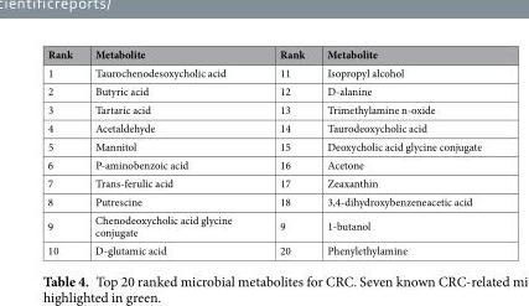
<table><thead><tr><td>Rank</td><td>Metabolite</td><td>Rank</td><td>Metabolite</td></tr></thead><tbody><tr><td>1</td><td>Taurochenodesoxycholic acid</td><td>11</td><td>Isopropyl alcohol</td></tr><tr><td>2</td><td>Butyric acid</td><td>12</td><td>D-alanine</td></tr><tr><td>3</td><td>Tartaric acid</td><td>13</td><td>Trimethylamine n-oxide</td></tr><tr><td>4</td><td>Acetaldehyde</td><td>14</td><td>Taurodeoxycholic acid</td></tr><tr><td>5</td><td>Mannitol</td><td>15</td><td>Deoxycholic acid glycine conjugate</td></tr><tr><td>6</td><td>P-aminobenzoic acid</td><td>16</td><td>Acetone</td></tr><tr><td>7</td><td>Trans-ferulic acid</td><td>17</td><td>Zeaxanthin</td></tr><tr><td>8</td><td>Putrescine</td><td>18</td><td>3,4-dihydroxybenzeneacetic acid</td></tr><tr><td>9</td><td>Chenodeoxycholic acid glycine conjugate</td><td>9</td><td>1-butanol</td></tr><tr><td>10</td><td>D-glutamic acid</td><td>20</td><td>Phenylethylamine</td></tr></tbody></table>